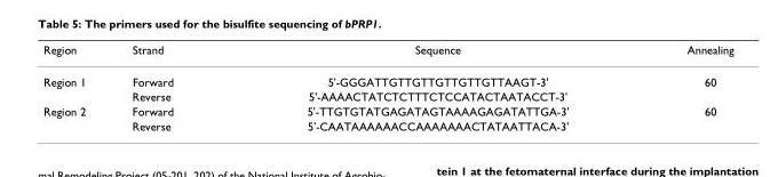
<table><thead><tr><td>Region</td><td>Strand</td><td>Sequence</td><td>Annealing</td></tr></thead><tbody><tr><td rowspan="2">Region 1</td><td>Forward</td><td>5&#x27;-GGGATTGTTGTTGTTGTTGTTAAGT-3&#x27;</td><td>60</td></tr><tr><td>Reverse</td><td>5&#x27;-AAAACTATCTCTTTCTCCATACTAATACCT-3&#x27;</td><td></td></tr><tr><td rowspan="2">Region 2</td><td>Forward</td><td>5&#x27;-TTGTGTATGAGATAGTAAAAGAGATATTGA-3&#x27;</td><td>60</td></tr><tr><td>Reverse</td><td>5&#x27;-CAATAAAAAACCAAAAAAACTATAATTACA-3&#x27;</td><td></td></tr></tbody></table>